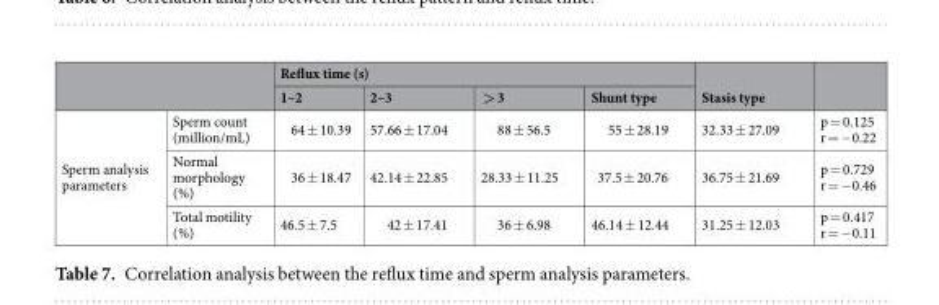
<table><thead><tr><td rowspan="2"></td><td rowspan="2"></td><td colspan="4">Reflux time (s)</td><td rowspan="2">Stasis type</td><td rowspan="2"></td></tr><tr><td>1–2</td><td>2–3</td><td>&gt; 3</td><td>Shunt type</td></tr></thead><tbody><tr><td rowspan="3">Sperm analysis parameters</td><td>Sperm count (million/mL)</td><td>64 ± 10.39</td><td>57.66 ± 17.04</td><td>88 ± 56.5</td><td>55 ± 28.19</td><td>32.33 ± 27.09</td><td>p = 0.125 r = −0.22</td></tr><tr><td>Normal morphology (%)</td><td>36 ± 18.47</td><td>42.14 ± 22.85</td><td>28.33 ± 11.25</td><td>37.5 ± 20.76</td><td>36.75 ± 21.69</td><td>p = 0.729 r = −0.46</td></tr><tr><td>Total motility (%)</td><td>46.5 ± 7.5</td><td>42 ± 17.41</td><td>36 ± 6.98</td><td>46.14 ± 12.44</td><td>31.25 ± 12.03</td><td>p = 0.417 r = −0.11</td></tr></tbody></table>